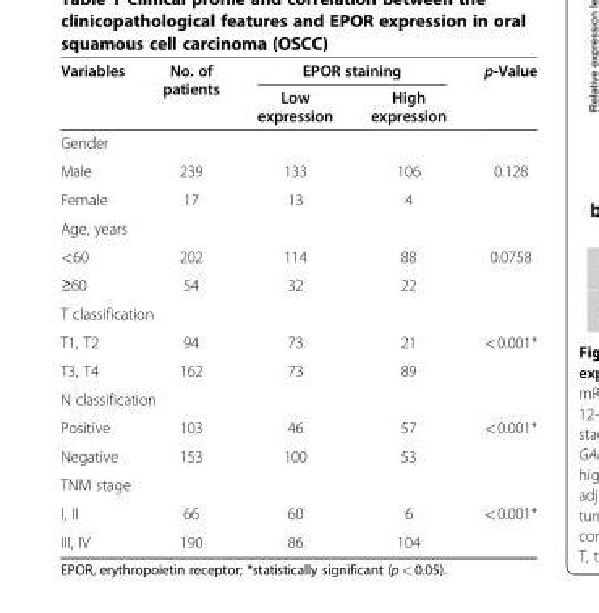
<table><thead><tr><td rowspan="2">Variables</td><td rowspan="2">No. of patients</td><td colspan="2">EPOR staining</td><td rowspan="2">p-Value</td></tr><tr><td>Low expression</td><td>High expression</td></tr></thead><tbody><tr><td colspan="5">Gender</td></tr><tr><td>Male</td><td>239</td><td>133</td><td>106</td><td>0.128</td></tr><tr><td>Female</td><td>17</td><td>13</td><td>4</td><td></td></tr><tr><td colspan="5">Age, years</td></tr><tr><td>&lt;60</td><td>202</td><td>114</td><td>88</td><td>0.0758</td></tr><tr><td>≥60</td><td>54</td><td>32</td><td>22</td><td></td></tr><tr><td colspan="5">T classification</td></tr><tr><td>T1, T2</td><td>94</td><td>73</td><td>21</td><td>&lt;0.001*</td></tr><tr><td>T3, T4</td><td>162</td><td>73</td><td>89</td><td></td></tr><tr><td colspan="5">N classification</td></tr><tr><td>Positive</td><td>103</td><td>46</td><td>57</td><td>&lt;0.001*</td></tr><tr><td>Negative</td><td>153</td><td>100</td><td>53</td><td></td></tr><tr><td colspan="5">TNM stage</td></tr><tr><td>I, II</td><td>66</td><td>60</td><td>6</td><td>&lt;0.001*</td></tr><tr><td>III, IV</td><td>190</td><td>86</td><td>104</td><td></td></tr></tbody></table>